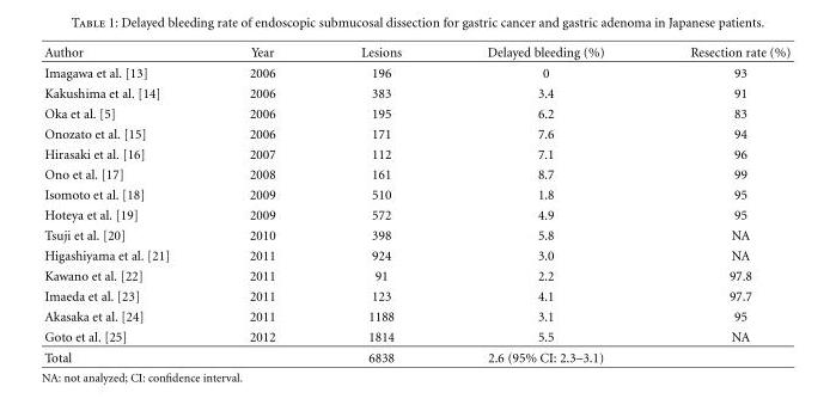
<table><thead><tr><td>Author</td><td>Year</td><td>Lesions</td><td>Delayed bleeding (%)</td><td>Resection rate (%)</td></tr></thead><tbody><tr><td>Imagawa et al. [13]</td><td>2006</td><td>196</td><td>0</td><td>93</td></tr><tr><td>Kakushima et al. [14]</td><td>2006</td><td>383</td><td>3.4</td><td>91</td></tr><tr><td>Oka et al. [5]</td><td>2006</td><td>195</td><td>6.2</td><td>83</td></tr><tr><td>Onozato et al. [15]</td><td>2006</td><td>171</td><td>7.6</td><td>94</td></tr><tr><td>Hirasaki et al. [16]</td><td>2007</td><td>112</td><td>7.1</td><td>96</td></tr><tr><td>Ono et al. [17]</td><td>2008</td><td>161</td><td>8.7</td><td>99</td></tr><tr><td>Isomoto et al. [18]</td><td>2009</td><td>510</td><td>1.8</td><td>95</td></tr><tr><td>Hoteya et al. [19]</td><td>2009</td><td>572</td><td>4.9</td><td>95</td></tr><tr><td>Tsuji et al. [20]</td><td>2010</td><td>398</td><td>5.8</td><td>NA</td></tr><tr><td>Higashiyama et al. [21]</td><td>2011</td><td>924</td><td>3.0</td><td>NA</td></tr><tr><td>Kawano et al. [22]</td><td>2011</td><td>91</td><td>2.2</td><td>97.8</td></tr><tr><td>Imaeda et al. [23]</td><td>2011</td><td>123</td><td>4.1</td><td>97.7</td></tr><tr><td>Akasaka et al. [24]</td><td>2011</td><td>1188</td><td>3.1</td><td>95</td></tr><tr><td>Goto et al. [25]</td><td>2012</td><td>1814</td><td>5.5</td><td>NA</td></tr><tr><td>Total</td><td></td><td>6838</td><td>2.6 (95% CI: 2.3–3.1)</td><td></td></tr></tbody></table>